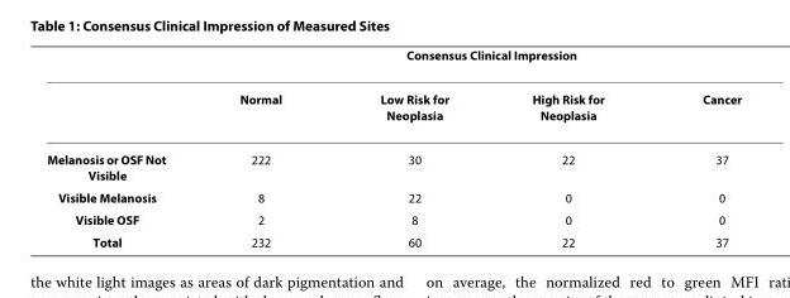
<table><thead><tr><td rowspan="2"></td><td colspan="4">Consensus Clinical Impression</td></tr><tr><td>Normal</td><td>Low Risk for Neoplasia</td><td>High Risk for Neoplasia</td><td>Cancer</td></tr></thead><tbody><tr><td>Melanosis or OSF Not Visible</td><td>222</td><td>30</td><td>22</td><td>37</td></tr><tr><td>Visible Melanosis</td><td>8</td><td>22</td><td>0</td><td>0</td></tr><tr><td>Visible OSF</td><td>2</td><td>8</td><td>0</td><td>0</td></tr><tr><td>Total</td><td>232</td><td>60</td><td>22</td><td>37</td></tr></tbody></table>